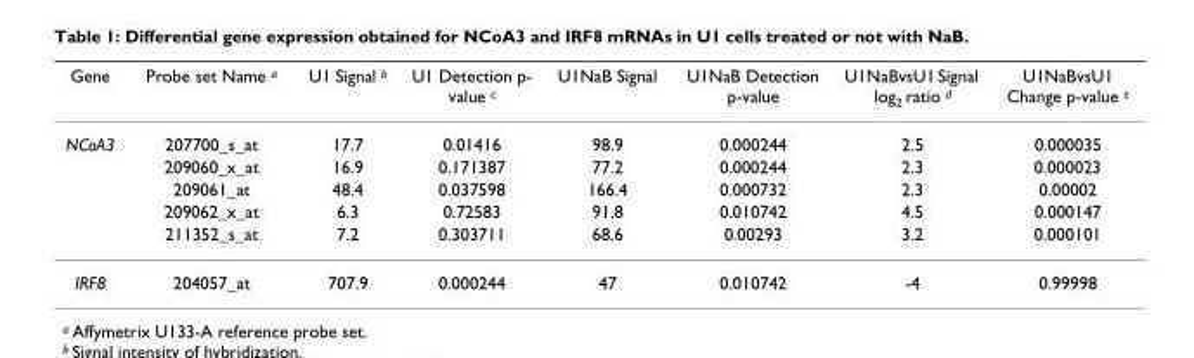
<table><thead><tr><td>Gene</td><td>Probe set Name <sup>a</sup></td><td>U1 Signal <sup>b</sup></td><td>U1 Detection p- value <sup>c</sup></td><td>U1NaB Signal</td><td>U1NaB Detection p-value</td><td>U1NaBvsU1 Signal log<sub>2</sub> ratio <sup>d</sup></td><td>U1NaBvsU1 Change p-value <sup>e</sup></td></tr></thead><tbody><tr><td rowspan="5">NCoA3</td><td>207700_s_at</td><td>17.7</td><td>0.01416</td><td>98.9</td><td>0.000244</td><td>2.5</td><td>0.000035</td></tr><tr><td>209060_x_at</td><td>16.9</td><td>0.171387</td><td>77.2</td><td>0.000244</td><td>2.3</td><td>0.000023</td></tr><tr><td>209061_at</td><td>48.4</td><td>0.037598</td><td>166.4</td><td>0.000732</td><td>2.3</td><td>0.00002</td></tr><tr><td>209062_x_at</td><td>6.3</td><td>0.72583</td><td>91.8</td><td>0.010742</td><td>4.5</td><td>0.000147</td></tr><tr><td>211352_s_at</td><td>7.2</td><td>0.303711</td><td>68.6</td><td>0.00293</td><td>3.2</td><td>0.000101</td></tr><tr><td>IRF8</td><td>204057_at</td><td>707.9</td><td>0.000244</td><td>47</td><td>0.010742</td><td>-4</td><td>0.99998</td></tr></tbody></table>